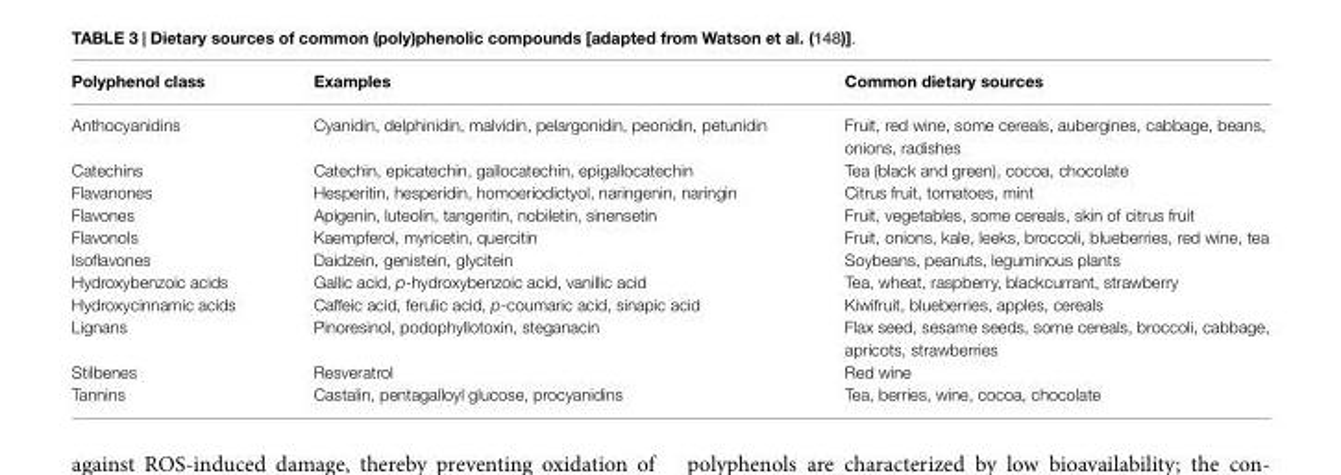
<table><thead><tr><td>Polyphenol class</td><td>Examples</td><td>Common dietary sources</td></tr></thead><tbody><tr><td>Anthocyanidins</td><td>Cyanidin, delphinidin, malvidin, pelargonidin, peonidin, petunidin</td><td>Fruit, red wine, some cereals, aubergines, cabbage, beans, onions, radishes</td></tr><tr><td>Catechins</td><td>Catechin, epicatechin, gallocatechin, epigallocatechin</td><td>Tea (black and green), cocoa, chocolate</td></tr><tr><td>Flavanones</td><td>Hesperitin, hesperidin, homoeriodictyol, naringenin, naringin</td><td>Citrus fruit, tomatoes, mint</td></tr><tr><td>Flavones</td><td>Apigenin, luteolin, tangeritin, nobiletin, sinensetin</td><td>Fruit, vegetables, some cereals, skin of citrus fruit</td></tr><tr><td>Flavonols</td><td>Kaempferol, myricetin, quercitin</td><td>Fruit, onions, kale, leeks, broccoli, blueberries, red wine, tea</td></tr><tr><td>Isoflavones</td><td>Daidzein, genistein, glycitein</td><td>Soybeans, peanuts, leguminous plants</td></tr><tr><td>Hydroxybenzoic acids</td><td>Gallic acid, p-hydroxybenzoic acid, vanillic acid</td><td>Tea, wheat, raspberry, blackcurrant, strawberry</td></tr><tr><td>Hydroxycinnamic acids</td><td>Caffeic acid, ferulic acid, p-coumaric acid, sinapic acid</td><td>Kiwifruit, blueberries, apples, cereals</td></tr><tr><td>Lignans</td><td>Pinoresinol, podophyllotoxin, steganacin</td><td>Flax seed, sesame seeds, some cereals, broccoli, cabbage, apricots, strawberries</td></tr><tr><td>Stilbenes</td><td>Resveratrol</td><td>Red wine</td></tr><tr><td>Tannins</td><td>Castalin, pentagalloyl glucose, procyanidins</td><td>Tea, berries, wine, cocoa, chocolate</td></tr></tbody></table>